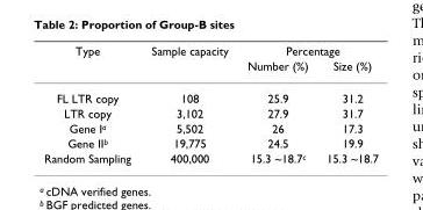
<table><thead><tr><td rowspan="2">Type</td><td rowspan="2">Sample capacity</td><td colspan="2">Percentage</td></tr><tr><td>Number (%)</td><td>Size (%)</td></tr></thead><tbody><tr><td>FL LTR copy</td><td>108</td><td>25.9</td><td>31.2</td></tr><tr><td>LTR copy</td><td>3,102</td><td>27.9</td><td>31.7</td></tr><tr><td>Gene I<sup>a</sup></td><td>5,502</td><td>26</td><td>17.3</td></tr><tr><td>Gene II<sup>b</sup></td><td>19,775</td><td>24.5</td><td>19.9</td></tr><tr><td>Random Sampling</td><td>400,000</td><td>15.3 ~18.7<sup>c</sup></td><td>15.3 ~18.7</td></tr></tbody></table>